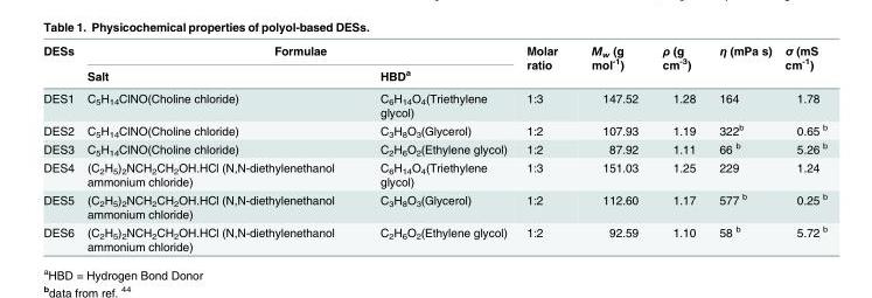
<table><thead><tr><td rowspan="2">DESs</td><td colspan="2">Formulae</td><td rowspan="2">Molar ratio</td><td rowspan="2">M<sub>w</sub> (g mol<sup>-1</sup>)</td><td rowspan="2">ρ (g cm<sup>-3</sup>)</td><td rowspan="2">η (mPa s)</td><td rowspan="2">σ (mS cm<sup>-1</sup>)</td></tr><tr><td>Salt</td><td>HBD<sup>a</sup></td></tr></thead><tbody><tr><td>DES1</td><td>C<sub>5</sub>H<sub>14</sub>ClNO(Choline chloride)</td><td>C<sub>6</sub>H<sub>14</sub>O<sub>4</sub>(Triethylene glycol)</td><td>1:3</td><td>147.52</td><td>1.28</td><td>164</td><td>1.78</td></tr><tr><td>DES2</td><td>C<sub>5</sub>H<sub>14</sub>ClNO(Choline chloride)</td><td>C<sub>3</sub>H<sub>8</sub>O<sub>3</sub>(Glycerol)</td><td>1:2</td><td>107.93</td><td>1.19</td><td>322<sup>b</sup></td><td>0.65 <sup>b</sup></td></tr><tr><td>DES3</td><td>C<sub>5</sub>H<sub>14</sub>ClNO(Choline chloride)</td><td>C<sub>2</sub>H<sub>6</sub>O<sub>2</sub>(Ethylene glycol)</td><td>1:2</td><td>87.92</td><td>1.11</td><td>66 <sup>b</sup></td><td>5.26 <sup>b</sup></td></tr><tr><td>DES4</td><td>(C<sub>2</sub>H<sub>5</sub>)<sub>2</sub>NCH<sub>2</sub>CH<sub>2</sub>OH.HCl (N,N-diethylenethanol ammonium chloride)</td><td>C<sub>6</sub>H<sub>14</sub>O<sub>4</sub>(Triethylene glycol)</td><td>1:3</td><td>151.03</td><td>1.25</td><td>229</td><td>1.24</td></tr><tr><td>DES5</td><td>(C<sub>2</sub>H<sub>5</sub>)<sub>2</sub>NCH<sub>2</sub>CH<sub>2</sub>OH.HCl (N,N-diethylenethanol ammonium chloride)</td><td>C<sub>3</sub>H<sub>8</sub>O<sub>3</sub>(Glycerol)</td><td>1:2</td><td>112.60</td><td>1.17</td><td>577 <sup>b</sup></td><td>0.25 <sup>b</sup></td></tr><tr><td>DES6</td><td>(C<sub>2</sub>H<sub>5</sub>)<sub>2</sub>NCH<sub>2</sub>CH<sub>2</sub>OH.HCl (N,N-diethylenethanol ammonium chloride)</td><td>C<sub>2</sub>H<sub>6</sub>O<sub>2</sub>(Ethylene glycol)</td><td>1:2</td><td>92.59</td><td>1.10</td><td>58 <sup>b</sup></td><td>5.72 <sup>b</sup></td></tr></tbody></table>